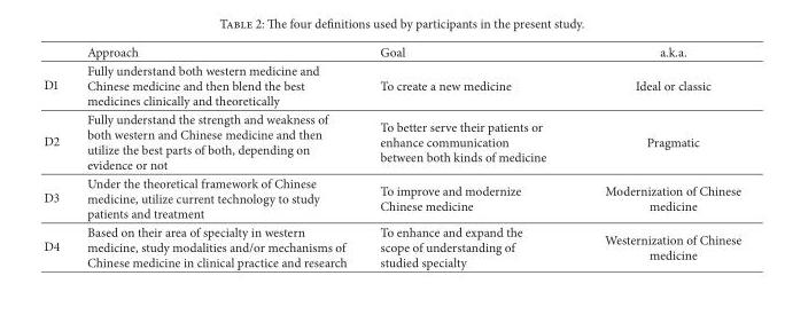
<table><thead><tr><td></td><td>Approach</td><td>Goal</td><td>a.k.a.</td></tr></thead><tbody><tr><td>D1</td><td>Fully understand both western medicine and Chinese medicine and then blend the best medicines clinically and theoretically</td><td>To create a new medicine</td><td>Ideal or classic</td></tr><tr><td>D2</td><td>Fully understand the strength and weakness of both western and Chinese medicine and then utilize the best parts of both, depending on evidence or not</td><td>To better serve their patients or enhance communication between both kinds of medicine</td><td>Pragmatic</td></tr><tr><td>D3</td><td>Under the theoretical framework of Chinese medicine, utilize current technology to study patients and treatment</td><td>To improve and modernize Chinese medicine</td><td>Modernization of Chinese medicine</td></tr><tr><td>D4</td><td>Based on their area of specialty in western medicine, study modalities and/or mechanisms of Chinese medicine in clinical practice and research</td><td>To enhance and expand the scope of understanding of studied specialty</td><td>Westernization of Chinese medicine</td></tr></tbody></table>